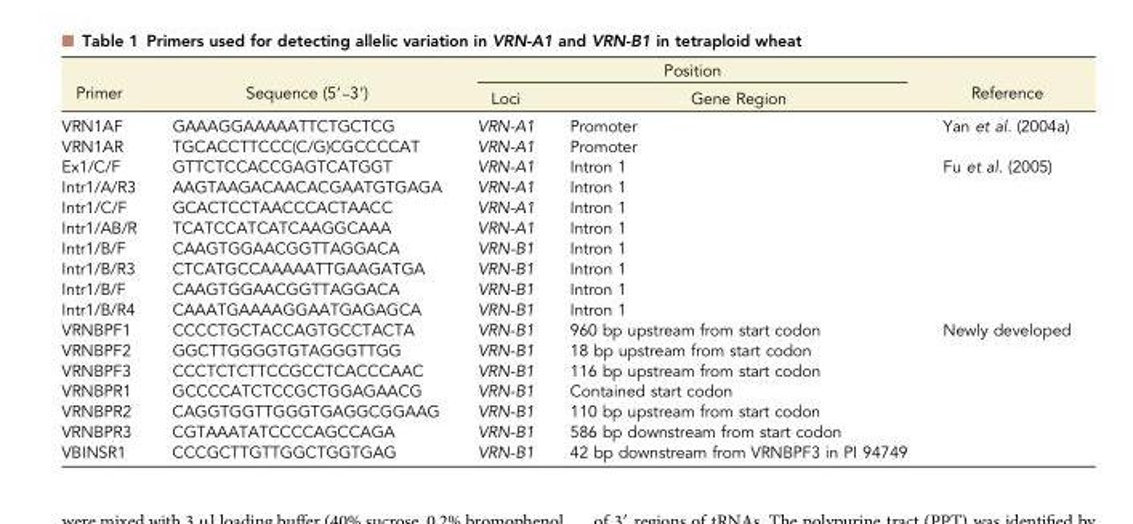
<table><thead><tr><td rowspan="2">Primer</td><td rowspan="2">Sequence (5′–3′)</td><td colspan="2">Position</td><td rowspan="2">Reference</td></tr><tr><td>Loci</td><td>Gene Region</td></tr></thead><tbody><tr><td>VRN1AF</td><td>GAAAGGAAAAATTCTGCTCG</td><td>VRN-A1</td><td>Promoter</td><td rowspan="2">Yan et al. (2004a)</td></tr><tr><td>VRN1AR</td><td>TGCACCTTCCC(C/G)CGCCCCAT</td><td>VRN-A1</td><td>Promoter</td></tr><tr><td>Ex1/C/F</td><td>GTTCTCCACCGAGTCATGGT</td><td>VRN-A1</td><td>Intron 1</td><td rowspan="8">Fu et al. (2005)</td></tr><tr><td>Intr1/A/R3</td><td>AAGTAAGACAACACGAATGTGAGA</td><td>VRN-A1</td><td>Intron 1</td></tr><tr><td>Intr1/C/F</td><td>GCACTCCTAACCCACTAACC</td><td>VRN-A1</td><td>Intron 1</td></tr><tr><td>Intr1/AB/R</td><td>TCATCCATCATCAAGGCAAA</td><td>VRN-A1</td><td>Intron 1</td></tr><tr><td>Intr1/B/F</td><td>CAAGTGGAACGGTTAGGACA</td><td>VRN-B1</td><td>Intron 1</td></tr><tr><td>Intr1/B/R3</td><td>CTCATGCCAAAAATTGAAGATGA</td><td>VRN-B1</td><td>Intron 1</td></tr><tr><td>Intr1/B/F</td><td>CAAGTGGAACGGTTAGGACA</td><td>VRN-B1</td><td>Intron 1</td></tr><tr><td>Intr1/B/R4</td><td>CAAATGAAAAGGAATGAGAGCA</td><td>VRN-B1</td><td>Intron 1</td></tr><tr><td>VRNBPF1</td><td>CCCCTGCTACCAGTGCCTACTA</td><td>VRN-B1</td><td>960 bp upstream from start codon</td><td rowspan="7">Newly developed</td></tr><tr><td>VRNBPF2</td><td>GGCTTGGGGTGTAGGGTTGG</td><td>VRN-B1</td><td>18 bp upstream from start codon</td></tr><tr><td>VRNBPF3</td><td>CCCTCTCTTCCGCCTCACCCAAC</td><td>VRN-B1</td><td>116 bp upstream from start codon</td></tr><tr><td>VRNBPR1</td><td>GCCCCATCTCCGCTGGAGAACG</td><td>VRN-B1</td><td>Contained start codon</td></tr><tr><td>VRNBPR2</td><td>CAGGTGGTTGGGTGAGGCGGAAG</td><td>VRN-B1</td><td>110 bp upstream from start codon</td></tr><tr><td>VRNBPR3</td><td>CGTAAATATCCCCAGCCAGA</td><td>VRN-B1</td><td>586 bp downstream from start codon</td></tr><tr><td>VBINSR1</td><td>CCCGCTTGTTGGCTGGTGAG</td><td>VRN-B1</td><td>42 bp downstream from VRNBPF3 in PI 94749</td></tr></tbody></table>